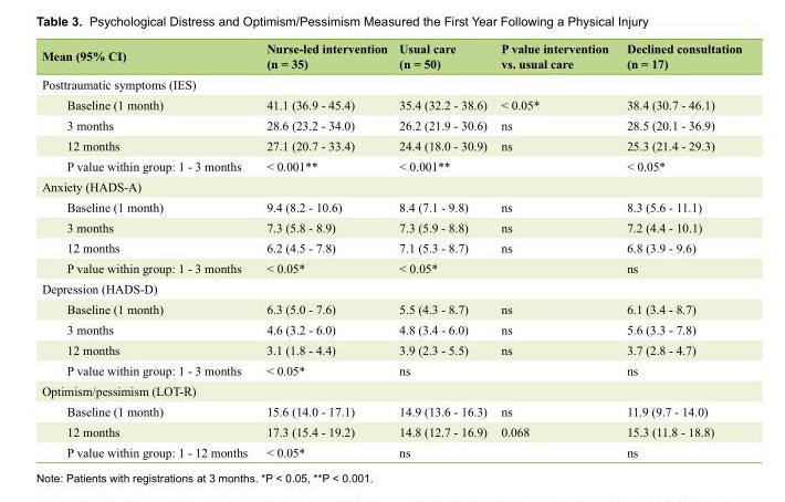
<table><thead><tr><td>Mean (95% CI)</td><td>Nurse-led intervention (n = 35)</td><td>Usual care (n = 50)</td><td>P value intervention vs. usual care</td><td>Declined consultation (n = 17)</td></tr></thead><tbody><tr><td colspan="5">Posttraumatic symptoms (IES)</td></tr><tr><td>Baseline (1 month)</td><td>41.1 (36.9 - 45.4)</td><td>35.4 (32.2 - 38.6)</td><td>&lt; 0.05*</td><td>38.4 (30.7 - 46.1)</td></tr><tr><td>3 months</td><td>28.6 (23.2 - 34.0)</td><td>26.2 (21.9 - 30.6)</td><td>ns</td><td>28.5 (20.1 - 36.9)</td></tr><tr><td>12 months</td><td>27.1 (20.7 - 33.4)</td><td>24.4 (18.0 - 30.9)</td><td>ns</td><td>25.3 (21.4 - 29.3)</td></tr><tr><td>P value within group: 1 - 3 months</td><td>&lt; 0.001**</td><td>&lt; 0.001**</td><td></td><td>&lt; 0.05*</td></tr><tr><td colspan="5">Anxiety (HADS-A)</td></tr><tr><td>Baseline (1 month)</td><td>9.4 (8.2 - 10.6)</td><td>8.4 (7.1 - 9.8)</td><td>ns</td><td>8.3 (5.6 - 11.1)</td></tr><tr><td>3 months</td><td>7.3 (5.8 - 8.9)</td><td>7.3 (5.9 - 8.8)</td><td>ns</td><td>7.2 (4.4 - 10.1)</td></tr><tr><td>12 months</td><td>6.2 (4.5 - 7.8)</td><td>7.1 (5.3 - 8.7)</td><td>ns</td><td>6.8 (3.9 - 9.6)</td></tr><tr><td>P value within group: 1 - 3 months</td><td>&lt; 0.05*</td><td>&lt; 0.05*</td><td></td><td>ns</td></tr><tr><td colspan="5">Depression (HADS-D)</td></tr><tr><td>Baseline (1 month)</td><td>6.3 (5.0 - 7.6)</td><td>5.5 (4.3 - 8.7)</td><td>ns</td><td>6.1 (3.4 - 8.7)</td></tr><tr><td>3 months</td><td>4.6 (3.2 - 6.0)</td><td>4.8 (3.4 - 6.0)</td><td>ns</td><td>5.6 (3.3 - 7.8)</td></tr><tr><td>12 months</td><td>3.1 (1.8 - 4.4)</td><td>3.9 (2.3 - 5.5)</td><td>ns</td><td>3.7 (2.8 - 4.7)</td></tr><tr><td>P value within group: 1 - 3 months</td><td>&lt; 0.05*</td><td>ns</td><td></td><td>ns</td></tr><tr><td colspan="5">Optimism/pessimism (LOT-R)</td></tr><tr><td>Baseline (1 month)</td><td>15.6 (14.0 - 17.1)</td><td>14.9 (13.6 - 16.3)</td><td>ns</td><td>11.9 (9.7 - 14.0)</td></tr><tr><td>12 months</td><td>17.3 (15.4 - 19.2)</td><td>14.8 (12.7 - 16.9)</td><td>0.068</td><td>15.3 (11.8 - 18.8)</td></tr><tr><td>P value within group: 1 - 12 months</td><td>&lt; 0.05*</td><td>ns</td><td></td><td>ns</td></tr></tbody></table>